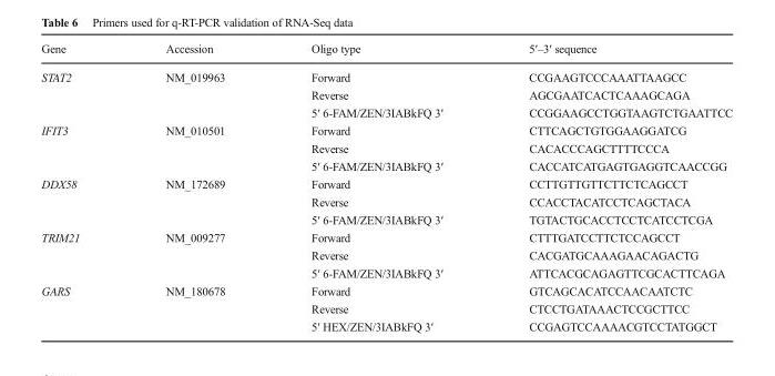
<table><thead><tr><td>Gene</td><td>Accession</td><td>Oligo type</td><td>5′–3′ sequence</td></tr></thead><tbody><tr><td rowspan="3">STAT2</td><td rowspan="3">NM_019963</td><td>Forward</td><td>CCGAAGTCCCAAATTAAGCC</td></tr><tr><td>Reverse</td><td>AGCGAATCACTCAAAGCAGA</td></tr><tr><td>5′ 6-FAM/ZEN/3IABkFQ 3′</td><td>CCGGAAGCCTGGTAAGTCTGAATTCC</td></tr><tr><td rowspan="3">IFIT3</td><td rowspan="3">NM_010501</td><td>Forward</td><td>CTTCAGCTGTGGAAGGATCG</td></tr><tr><td>Reverse</td><td>CACACCCAGCTTTTCCCA</td></tr><tr><td>5′ 6-FAM/ZEN/3IABkFQ 3′</td><td>CACCATCATGAGTGAGGTCAACCGG</td></tr><tr><td rowspan="3">DDX58</td><td rowspan="3">NM_172689</td><td>Forward</td><td>CCTTGTTGTTCTTCTCAGCCT</td></tr><tr><td>Reverse</td><td>CCACCTACATCCTCAGCTACA</td></tr><tr><td>5′ 6-FAM/ZEN/3IABkFQ 3′</td><td>TGTACTGCACCTCCTCATCCTCGA</td></tr><tr><td rowspan="3">TRIM21</td><td rowspan="3">NM_009277</td><td>Forward</td><td>CTTTGATCCTTCTCCAGCCT</td></tr><tr><td>Reverse</td><td>CACGATGCAAAGAACAGACTG</td></tr><tr><td>5′ 6-FAM/ZEN/3IABkFQ 3′</td><td>ATTCACGCAGAGTTCGCACTTCAGA</td></tr><tr><td rowspan="3">GARS</td><td rowspan="3">NM_180678</td><td>Forward</td><td>GTCAGCACATCCAACAATCTC</td></tr><tr><td>Reverse</td><td>CTCCTGATAAACTCCGCTTCC</td></tr><tr><td>5′ HEX/ZEN/3IABkFQ 3′</td><td>CCGAGTCCAAAACGTCCTATGGCT</td></tr></tbody></table>